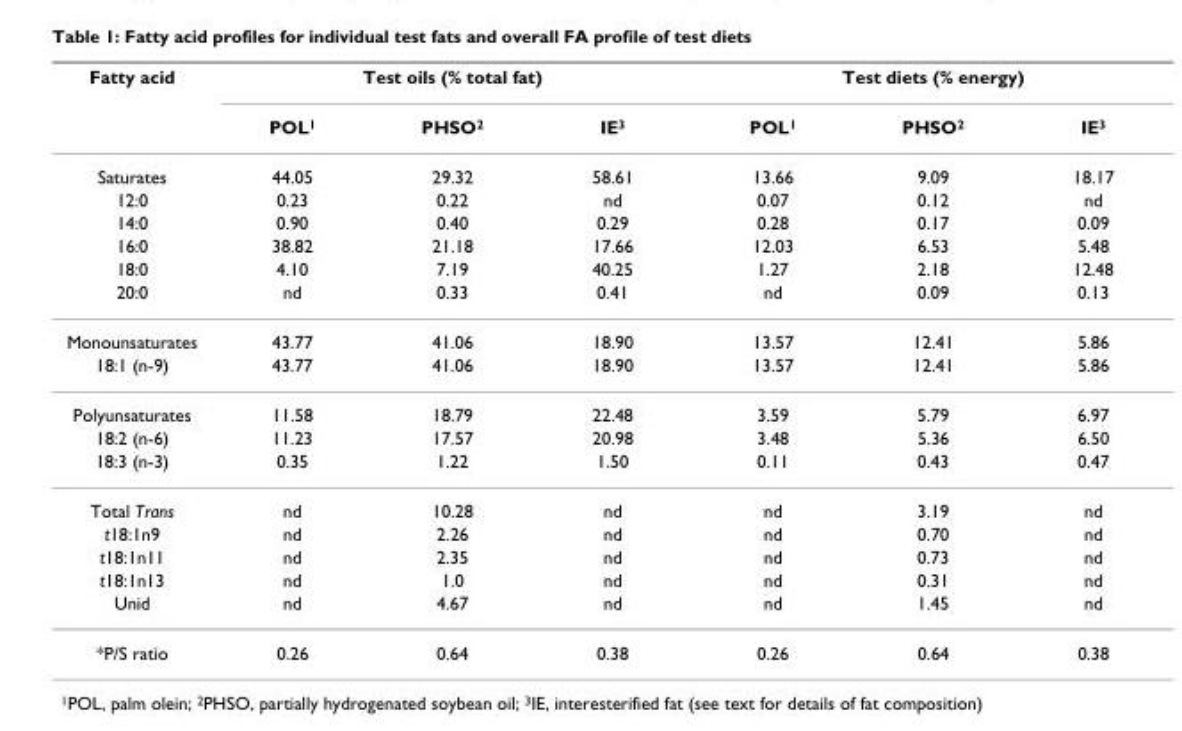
<table><thead><tr><td rowspan="2">Fatty acid</td><td colspan="3">Test oils (% total fat)</td><td colspan="3">Test diets (% energy)</td></tr><tr><td>POL<sup>1</sup></td><td>PHSO<sup>2</sup></td><td>IE<sup>3</sup></td><td>POL<sup>1</sup></td><td>PHSO<sup>2</sup></td><td>IE<sup>3</sup></td></tr></thead><tbody><tr><td>Saturates</td><td>44.05</td><td>29.32</td><td>58.61</td><td>13.66</td><td>9.09</td><td>18.17</td></tr><tr><td>12:0</td><td>0.23</td><td>0.22</td><td>nd</td><td>0.07</td><td>0.12</td><td>nd</td></tr><tr><td>14:0</td><td>0.90</td><td>0.40</td><td>0.29</td><td>0.28</td><td>0.17</td><td>0.09</td></tr><tr><td>16:0</td><td>38.82</td><td>21.18</td><td>17.66</td><td>12.03</td><td>6.53</td><td>5.48</td></tr><tr><td>18:0</td><td>4.10</td><td>7.19</td><td>40.25</td><td>1.27</td><td>2.18</td><td>12.48</td></tr><tr><td>20:0</td><td>nd</td><td>0.33</td><td>0.41</td><td>nd</td><td>0.09</td><td>0.13</td></tr><tr><td>Monounsaturates</td><td>43.77</td><td>41.06</td><td>18.90</td><td>13.57</td><td>12.41</td><td>5.86</td></tr><tr><td>18:1 (n-9)</td><td>43.77</td><td>41.06</td><td>18.90</td><td>13.57</td><td>12.41</td><td>5.86</td></tr><tr><td>Polyunsaturates</td><td>11.58</td><td>18.79</td><td>22.48</td><td>3.59</td><td>5.79</td><td>6.97</td></tr><tr><td>18:2 (n-6)</td><td>11.23</td><td>17.57</td><td>20.98</td><td>3.48</td><td>5.36</td><td>6.50</td></tr><tr><td>18:3 (n-3)</td><td>0.35</td><td>1.22</td><td>1.50</td><td>0.11</td><td>0.43</td><td>0.47</td></tr><tr><td>Total Trans</td><td>nd</td><td>10.28</td><td>nd</td><td>nd</td><td>3.19</td><td>nd</td></tr><tr><td>t18:1n9</td><td>nd</td><td>2.26</td><td>nd</td><td>nd</td><td>0.70</td><td>nd</td></tr><tr><td>t18:1n11</td><td>nd</td><td>2.35</td><td>nd</td><td>nd</td><td>0.73</td><td>nd</td></tr><tr><td>t18:1n13</td><td>nd</td><td>1.0</td><td>nd</td><td>nd</td><td>0.31</td><td>nd</td></tr><tr><td>Unid</td><td>nd</td><td>4.67</td><td>nd</td><td>nd</td><td>1.45</td><td>nd</td></tr><tr><td>*P/S ratio</td><td>0.26</td><td>0.64</td><td>0.38</td><td>0.26</td><td>0.64</td><td>0.38</td></tr></tbody></table>